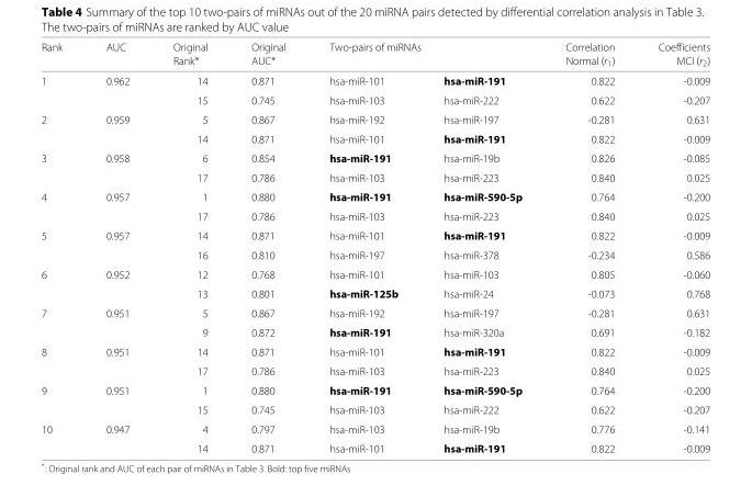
<table><thead><tr><td rowspan="2">Rank</td><td rowspan="2">AUC</td><td rowspan="2">Original Rank*</td><td rowspan="2">Original AUC*</td><td colspan="2">Two-pairs of miRNAs</td><td rowspan="2">Correlation Normal (r<sub>1</sub>)</td><td rowspan="2">Coefficients MCI (r<sub>2</sub>)</td></tr><tr><td></td><td></td></tr></thead><tbody><tr><td rowspan="2">1</td><td>0.962</td><td>14</td><td>0.871</td><td>hsa-miR-101</td><td>hsa-miR-191</td><td>0.822</td><td>-0.009</td></tr><tr><td></td><td>15</td><td>0.745</td><td>hsa-miR-103</td><td>hsa-miR-222</td><td>0.622</td><td>-0.207</td></tr><tr><td rowspan="2">2</td><td>0.959</td><td>5</td><td>0.867</td><td>hsa-miR-192</td><td>hsa-miR-197</td><td>-0.281</td><td>0.631</td></tr><tr><td></td><td>14</td><td>0.871</td><td>hsa-miR-101</td><td>hsa-miR-191</td><td>0.822</td><td>-0.009</td></tr><tr><td rowspan="2">3</td><td>0.958</td><td>6</td><td>0.854</td><td>hsa-miR-191</td><td>hsa-miR-19b</td><td>0.826</td><td>-0.085</td></tr><tr><td></td><td>17</td><td>0.786</td><td>hsa-miR-103</td><td>hsa-miR-223</td><td>0.840</td><td>0.025</td></tr><tr><td rowspan="2">4</td><td>0.957</td><td>1</td><td>0.880</td><td>hsa-miR-191</td><td>hsa-miR-590-5p</td><td>0.764</td><td>-0.200</td></tr><tr><td></td><td>17</td><td>0.786</td><td>hsa-miR-103</td><td>hsa-miR-223</td><td>0.840</td><td>0.025</td></tr><tr><td rowspan="2">5</td><td>0.957</td><td>14</td><td>0.871</td><td>hsa-miR-101</td><td>hsa-miR-191</td><td>0.822</td><td>-0.009</td></tr><tr><td></td><td>16</td><td>0.810</td><td>hsa-miR-197</td><td>hsa-miR-378</td><td>-0.234</td><td>0.586</td></tr><tr><td rowspan="2">6</td><td>0.952</td><td>12</td><td>0.768</td><td>hsa-miR-101</td><td>hsa-miR-103</td><td>0.805</td><td>-0.060</td></tr><tr><td></td><td>13</td><td>0.801</td><td>hsa-miR-125b</td><td>hsa-miR-24</td><td>-0.073</td><td>0.768</td></tr><tr><td rowspan="2">7</td><td>0.951</td><td>5</td><td>0.867</td><td>hsa-miR-192</td><td>hsa-miR-197</td><td>-0.281</td><td>0.631</td></tr><tr><td></td><td>9</td><td>0.872</td><td>hsa-miR-191</td><td>hsa-miR-320a</td><td>0.691</td><td>-0.182</td></tr><tr><td rowspan="2">8</td><td>0.951</td><td>14</td><td>0.871</td><td>hsa-miR-101</td><td>hsa-miR-191</td><td>0.822</td><td>-0.009</td></tr><tr><td></td><td>17</td><td>0.786</td><td>hsa-miR-103</td><td>hsa-miR-223</td><td>0.840</td><td>0.025</td></tr><tr><td rowspan="2">9</td><td>0.951</td><td>1</td><td>0.880</td><td>hsa-miR-191</td><td>hsa-miR-590-5p</td><td>0.764</td><td>-0.200</td></tr><tr><td></td><td>15</td><td>0.745</td><td>hsa-miR-103</td><td>hsa-miR-222</td><td>0.622</td><td>-0.207</td></tr><tr><td rowspan="2">10</td><td>0.947</td><td>4</td><td>0.797</td><td>hsa-miR-103</td><td>hsa-miR-19b</td><td>0.776</td><td>-0.141</td></tr><tr><td></td><td>14</td><td>0.871</td><td>hsa-miR-101</td><td>hsa-miR-191</td><td>0.822</td><td>-0.009</td></tr></tbody></table>